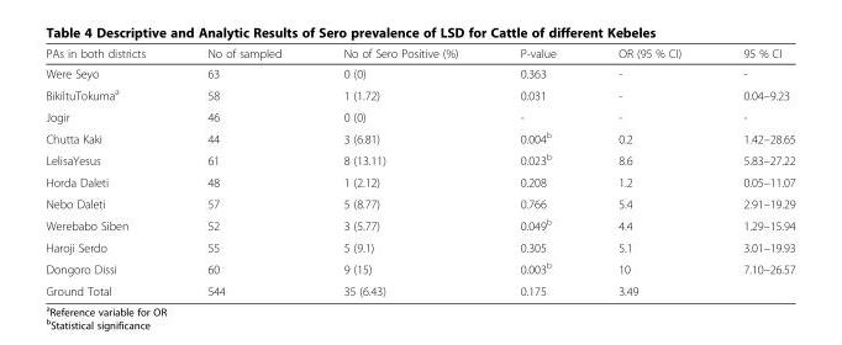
<table><thead><tr><td>PAs in both districts</td><td>No of sampled</td><td>No of Sero Positive (%)</td><td>P-value</td><td>OR (95 % CI)</td><td>95 % CI</td></tr></thead><tbody><tr><td>Were Seyo</td><td>63</td><td>0 (0)</td><td>0.363</td><td>-</td><td>-</td></tr><tr><td>BikiltuTokuma<sup>a</sup></td><td>58</td><td>1 (1.72)</td><td>0.031</td><td>-</td><td>0.04–9.23</td></tr><tr><td>Jogir</td><td>46</td><td>0 (0)</td><td>-</td><td>-</td><td>-</td></tr><tr><td>Chutta Kaki</td><td>44</td><td>3 (6.81)</td><td>0.004<sup>b</sup></td><td>0.2</td><td>1.42–28.65</td></tr><tr><td>LelisaYesus</td><td>61</td><td>8 (13.11)</td><td>0.023<sup>b</sup></td><td>8.6</td><td>5.83–27.22</td></tr><tr><td>Horda Daleti</td><td>48</td><td>1 (2.12)</td><td>0.208</td><td>1.2</td><td>0.05–11.07</td></tr><tr><td>Nebo Daleti</td><td>57</td><td>5 (8.77)</td><td>0.766</td><td>5.4</td><td>2.91–19.29</td></tr><tr><td>Werebabo Siben</td><td>52</td><td>3 (5.77)</td><td>0.049<sup>b</sup></td><td>4.4</td><td>1.29–15.94</td></tr><tr><td>Haroji Serdo</td><td>55</td><td>5 (9.1)</td><td>0.305</td><td>5.1</td><td>3.01–19.93</td></tr><tr><td>Dongoro Dissi</td><td>60</td><td>9 (15)</td><td>0.003<sup>b</sup></td><td>10</td><td>7.10–26.57</td></tr><tr><td>Ground Total</td><td>544</td><td>35 (6.43)</td><td>0.175</td><td>3.49</td><td></td></tr></tbody></table>